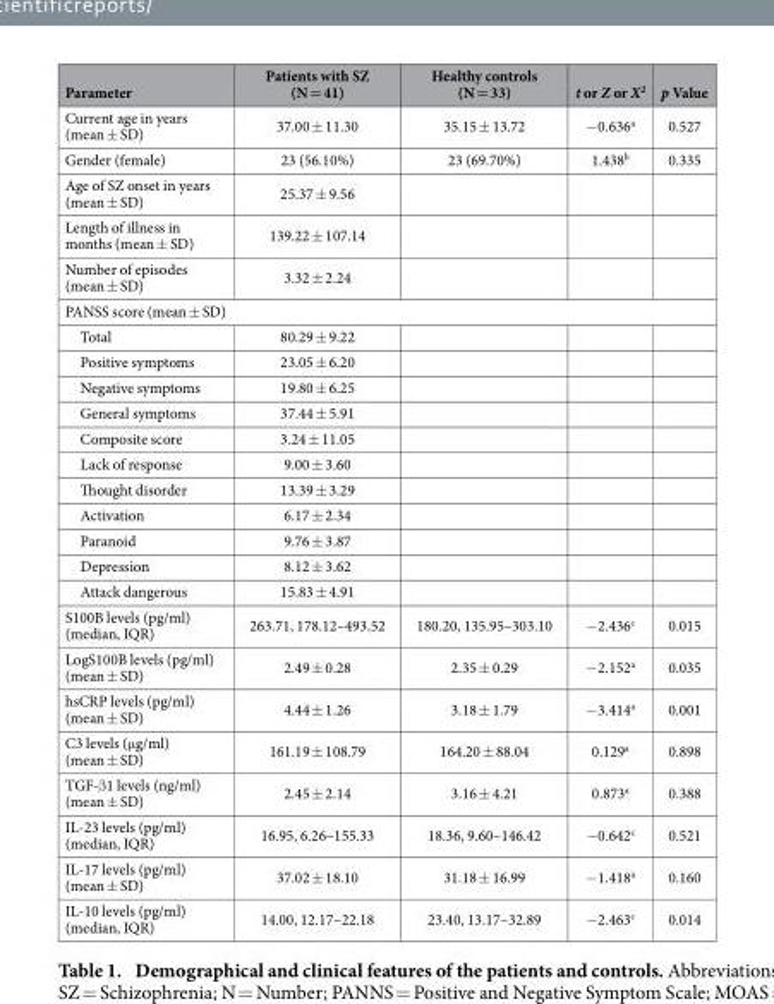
<table><thead><tr><td>Parameter</td><td>Patients with SZ (N = 41)</td><td>Healthy controls (N = 33)</td><td>t or Z or X<sup>2</sup></td><td>p Value</td></tr></thead><tbody><tr><td>Current age in years (mean ± SD)</td><td>37.00 ± 11.30</td><td>35.15 ± 13.72</td><td>− 0.636<sup>a</sup></td><td>0.527</td></tr><tr><td>Gender (female)</td><td>23 (56.10%)</td><td>23 (69.70%)</td><td>1.438<sup>b</sup></td><td>0.335</td></tr><tr><td>Age of SZ onset in years (mean ± SD)</td><td>25.37 ± 9.56</td><td></td><td></td><td></td></tr><tr><td>Length of illness in months (mean ± SD)</td><td>139.22 ± 107.14</td><td></td><td></td><td></td></tr><tr><td>Number of episodes (mean ± SD)</td><td>3.32 ± 2.24</td><td></td><td></td><td></td></tr><tr><td colspan="5">PANSS score (mean ± SD)</td></tr><tr><td>Total</td><td>80.29 ± 9.22</td><td></td><td></td><td></td></tr><tr><td>Positive symptoms</td><td>23.05 ± 6.20</td><td></td><td></td><td></td></tr><tr><td>Negative symptoms</td><td>19.80 ± 6.25</td><td></td><td></td><td></td></tr><tr><td>General symptoms</td><td>37.44 ± 5.91</td><td></td><td></td><td></td></tr><tr><td>Composite score</td><td>3.24 ± 11.05</td><td></td><td></td><td></td></tr><tr><td>Lack of response</td><td>9.00 ± 3.60</td><td></td><td></td><td></td></tr><tr><td>Thought disorder</td><td>13.39 ± 3.29</td><td></td><td></td><td></td></tr><tr><td>Activation</td><td>6.17 ± 2.34</td><td></td><td></td><td></td></tr><tr><td>Paranoid</td><td>9.76 ± 3.87</td><td></td><td></td><td></td></tr><tr><td>Depression</td><td>8.12 ± 3.62</td><td></td><td></td><td></td></tr><tr><td>Attack dangerous</td><td>15.83 ± 4.91</td><td></td><td></td><td></td></tr><tr><td>S100B levels (pg/ml) (median, IQR)</td><td>263.71, 178.12–493.52</td><td>180.20, 135.95–303.10</td><td>− 2.436<sup>c</sup></td><td>0.015</td></tr><tr><td>LogS100B levels (pg/ml) (mean ± SD)</td><td>2.49 ± 0.28</td><td>2.35 ± 0.29</td><td>− 2.152<sup>a</sup></td><td>0.035</td></tr><tr><td>hsCRP levels (pg/ml) (mean ± SD)</td><td>4.44 ± 1.26</td><td>3.18 ± 1.79</td><td>− 3.414<sup>a</sup></td><td>0.001</td></tr><tr><td>C3 levels (μ g/ml) (mean ± SD)</td><td>161.19 ± 108.79</td><td>164.20 ± 88.04</td><td>0.129<sup>a</sup></td><td>0.898</td></tr><tr><td>TGF-β 1 levels (ng/ml) (mean ± SD)</td><td>2.45 ± 2.14</td><td>3.16 ± 4.21</td><td>0.873<sup>a</sup></td><td>0.388</td></tr><tr><td>IL-23 levels (pg/ml) (median, IQR)</td><td>16.95, 6.26–155.33</td><td>18.36, 9.60–146.42</td><td>− 0.642<sup>c</sup></td><td>0.521</td></tr><tr><td>IL-17 levels (pg/ml) (mean ± SD)</td><td>37.02 ± 18.10</td><td>31.18 ± 16.99</td><td>− 1.418<sup>a</sup></td><td>0.160</td></tr><tr><td>IL-10 levels (pg/ml) (median, IQR)</td><td>14.00, 12.17–22.18</td><td>23.40, 13.17–32.89</td><td>− 2.463<sup>c</sup></td><td>0.014</td></tr></tbody></table>